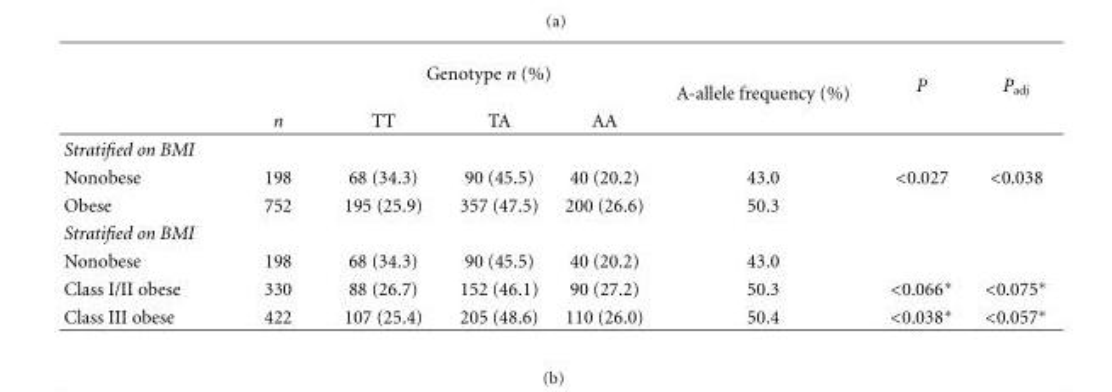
<table><thead><tr><td rowspan="2"></td><td rowspan="2">n</td><td colspan="3">Genotype n (%)</td><td rowspan="2">A-allele frequency (%)</td><td rowspan="2">P</td><td rowspan="2">P<sub>adj</sub></td></tr><tr><td>TT</td><td>TA</td><td>AA</td></tr></thead><tbody><tr><td colspan="8">Stratified on BMI</td></tr><tr><td>Nonobese</td><td>198</td><td>68 (34.3)</td><td>90 (45.5)</td><td>40 (20.2)</td><td>43.0</td><td>&lt;0.027</td><td>&lt;0.038</td></tr><tr><td>Obese</td><td>752</td><td>195 (25.9)</td><td>357 (47.5)</td><td>200 (26.6)</td><td>50.3</td><td></td><td></td></tr><tr><td colspan="8">Stratified on BMI</td></tr><tr><td>Nonobese</td><td>198</td><td>68 (34.3)</td><td>90 (45.5)</td><td>40 (20.2)</td><td>43.0</td><td></td><td></td></tr><tr><td>Class I/II obese</td><td>330</td><td>88 (26.7)</td><td>152 (46.1)</td><td>90 (27.2)</td><td>50.3</td><td>&lt;0.066∗</td><td>&lt;0.075∗</td></tr><tr><td>Class III obese</td><td>422</td><td>107 (25.4)</td><td>205 (48.6)</td><td>110 (26.0)</td><td>50.4</td><td>&lt;0.038∗</td><td>&lt;0.057∗</td></tr></tbody></table>